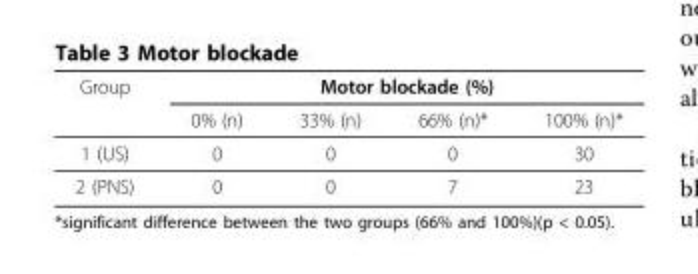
<table><thead><tr><td rowspan="2">Group</td><td colspan="4">Motor blockade (%)</td></tr><tr><td>0% (n)</td><td>33% (n)</td><td>66% (n)*</td><td>100% (n)*</td></tr></thead><tbody><tr><td>1 (US)</td><td>0</td><td>0</td><td>0</td><td>30</td></tr><tr><td>2 (PNS)</td><td>0</td><td>0</td><td>7</td><td>23</td></tr></tbody></table>